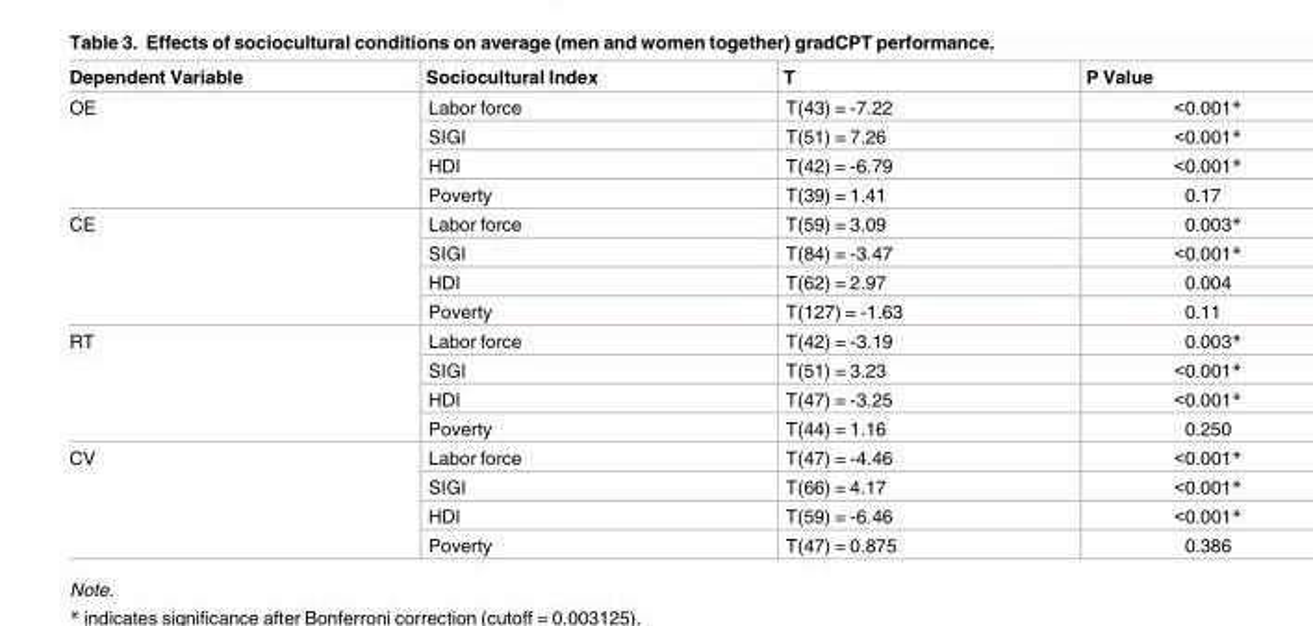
<table><thead><tr><td>Dependent Variable</td><td>Sociocultural Index</td><td>T</td><td>P Value</td></tr></thead><tbody><tr><td rowspan="4">OE</td><td>Labor force</td><td>T(43) = -7.22</td><td>&lt;0.001*</td></tr><tr><td>SIGI</td><td>T(51) = 7.26</td><td>&lt;0.001*</td></tr><tr><td>HDI</td><td>T(42) = -6.79</td><td>&lt;0.001*</td></tr><tr><td>Poverty</td><td>T(39) = 1.41</td><td>0.17</td></tr><tr><td rowspan="4">CE</td><td>Labor force</td><td>T(59) = 3.09</td><td>0.003*</td></tr><tr><td>SIGI</td><td>T(84) = -3.47</td><td>&lt;0.001*</td></tr><tr><td>HDI</td><td>T(62) = 2.97</td><td>0.004</td></tr><tr><td>Poverty</td><td>T(127) = -1.63</td><td>0.11</td></tr><tr><td rowspan="4">RT</td><td>Labor force</td><td>T(42) = -3.19</td><td>0.003*</td></tr><tr><td>SIGI</td><td>T(51) = 3.23</td><td>&lt;0.001*</td></tr><tr><td>HDI</td><td>T(47) = -3.25</td><td>&lt;0.001*</td></tr><tr><td>Poverty</td><td>T(44) = 1.16</td><td>0.250</td></tr><tr><td rowspan="4">CV</td><td>Labor force</td><td>T(47) = -4.46</td><td>&lt;0.001*</td></tr><tr><td>SIGI</td><td>T(66) = 4.17</td><td>&lt;0.001*</td></tr><tr><td>HDI</td><td>T(59) = -6.46</td><td>&lt;0.001*</td></tr><tr><td>Poverty</td><td>T(47) = 0.875</td><td>0.386</td></tr></tbody></table>